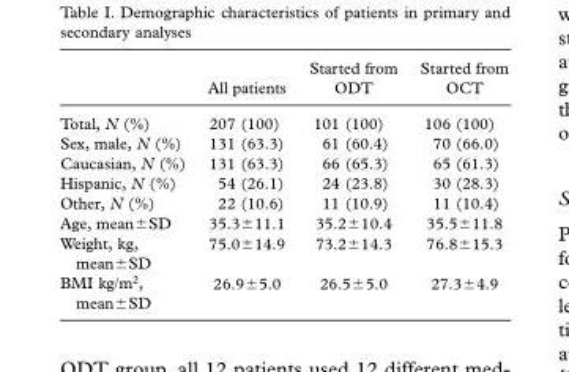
<table><thead><tr><td></td><td>All patients</td><td>Started from ODT</td><td>Started from OCT</td></tr></thead><tbody><tr><td>Total, N (%)</td><td>207 (100)</td><td>101 (100)</td><td>106 (100)</td></tr><tr><td>Sex, male, N (%)</td><td>131 (63.3)</td><td>61 (60.4)</td><td>70 (66.0)</td></tr><tr><td>Caucasian, N (%)</td><td>131 (63.3)</td><td>66 (65.3)</td><td>65 (61.3)</td></tr><tr><td>Hispanic, N (%)</td><td>54 (26.1)</td><td>24 (23.8)</td><td>30 (28.3)</td></tr><tr><td>Other, N (%)</td><td>22 (10.6)</td><td>11 (10.9)</td><td>11 (10.4)</td></tr><tr><td>Age, mean ± SD</td><td>35.3 ± 11.1</td><td>35.2 ± 10.4</td><td>35.5 ± 11.8</td></tr><tr><td>Weight, kg, mean ± SD</td><td>75.0 ± 14.9</td><td>73.2 ± 14.3</td><td>76.8 ± 15.3</td></tr><tr><td>BMI kg/m2, mean ± SD</td><td>26.9 ± 5.0</td><td>26.5 ± 5.0</td><td>27.3 ± 4.9</td></tr></tbody></table>